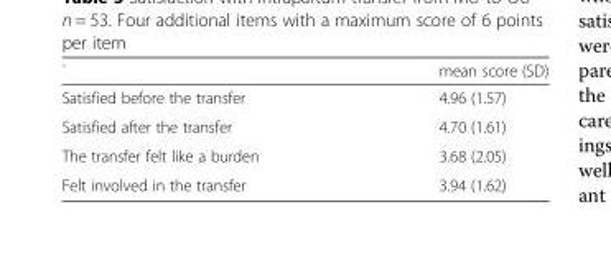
<table><thead><tr><td>`</td><td>mean score (SD)</td></tr></thead><tbody><tr><td>Satisfied before the transfer</td><td>4.96 (1.57)</td></tr><tr><td>Satisfied after the transfer</td><td>4.70 (1.61)</td></tr><tr><td>The transfer felt like a burden</td><td>3.68 (2.05)</td></tr><tr><td>Felt involved in the transfer</td><td>3.94 (1.62)</td></tr></tbody></table>